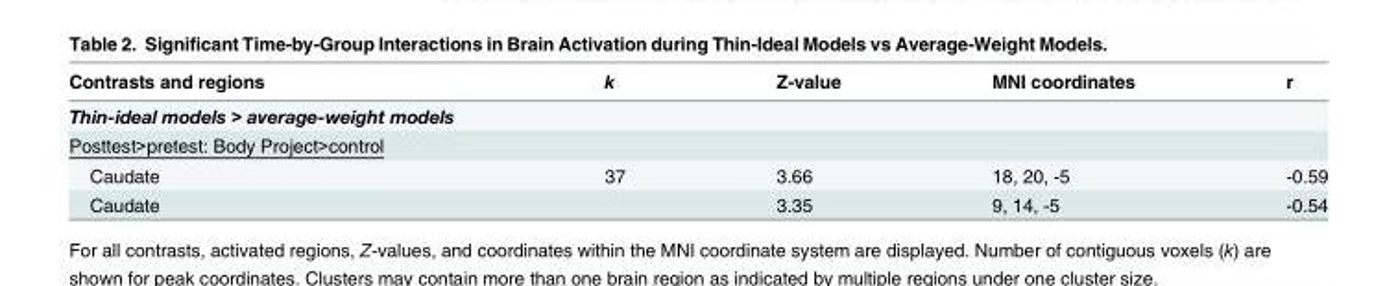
<table><thead><tr><td>Contrasts and regions</td><td>k</td><td>Z-value</td><td>MNI coordinates</td><td>r</td></tr></thead><tbody><tr><td colspan="5">Thin-ideal models &gt; average-weight models</td></tr><tr><td colspan="5">Posttest&gt;pretest: Body Project&gt;control</td></tr><tr><td>Caudate</td><td>37</td><td>3.66</td><td>18, 20, -5</td><td>-0.59</td></tr><tr><td>Caudate</td><td></td><td>3.35</td><td>9, 14, -5</td><td>-0.54</td></tr></tbody></table>